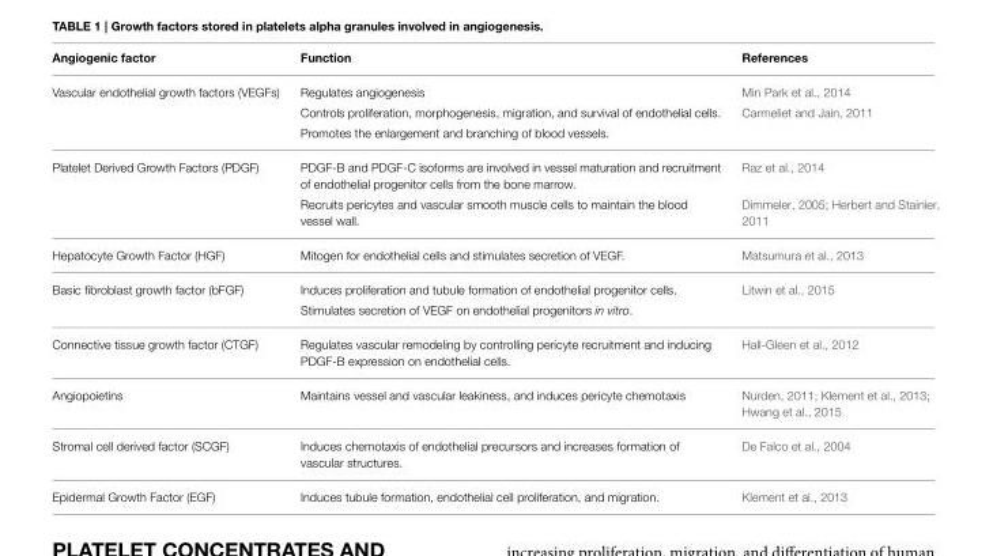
<table><thead><tr><td>Angiogenic factor</td><td>Function</td><td>References</td></tr></thead><tbody><tr><td rowspan="3">Vascular endothelial growth factors (VEGFs)</td><td>Regulates angiogenesis</td><td>Min Park et al., 2014</td></tr><tr><td>Controls proliferation, morphogenesis, migration, and survival of endothelial cells.</td><td>Carmeliet and Jain, 2011</td></tr><tr><td>Promotes the enlargement and branching of blood vessels.</td><td></td></tr><tr><td rowspan="2">Platelet Derived Growth Factors (PDGF)</td><td>PDGF-B and PDGF-C isoforms are involved in vessel maturation and recruitment of endothelial progenitor cells from the bone marrow.</td><td>Raz et al., 2014</td></tr><tr><td>Recruits pericytes and vascular smooth muscle cells to maintain the blood vessel wall.</td><td>Dimmeler, 2005; Herbert and Stainier, 2011</td></tr><tr><td>Hepatocyte Growth Factor (HGF)</td><td>Mitogen for endothelial cells and stimulates secretion of VEGF.</td><td>Matsumura et al., 2013</td></tr><tr><td rowspan="2">Basic fibroblast growth factor (bFGF)</td><td>Induces proliferation and tubule formation of endothelial progenitor cells.</td><td>Litwin et al., 2015</td></tr><tr><td>Stimulates secretion of VEGF on endothelial progenitors in vitro.</td><td></td></tr><tr><td>Connective tissue growth factor (CTGF)</td><td>Regulates vascular remodeling by controlling pericyte recruitment and inducing PDGF-B expression on endothelial cells.</td><td>Hall-Gleen et al., 2012</td></tr><tr><td>Angiopoietins</td><td>Maintains vessel and vascular leakiness, and induces pericyte chemotaxis</td><td>Nurden, 2011; Klement et al., 2013; Hwang et al., 2015</td></tr><tr><td>Stromal cell derived factor (SCGF)</td><td>Induces chemotaxis of endothelial precursors and increases formation of vascular structures.</td><td>De Falco et al., 2004</td></tr><tr><td>Epidermal Growth Factor (EGF)</td><td>Induces tubule formation, endothelial cell proliferation, and migration.</td><td>Klement et al., 2013</td></tr></tbody></table>